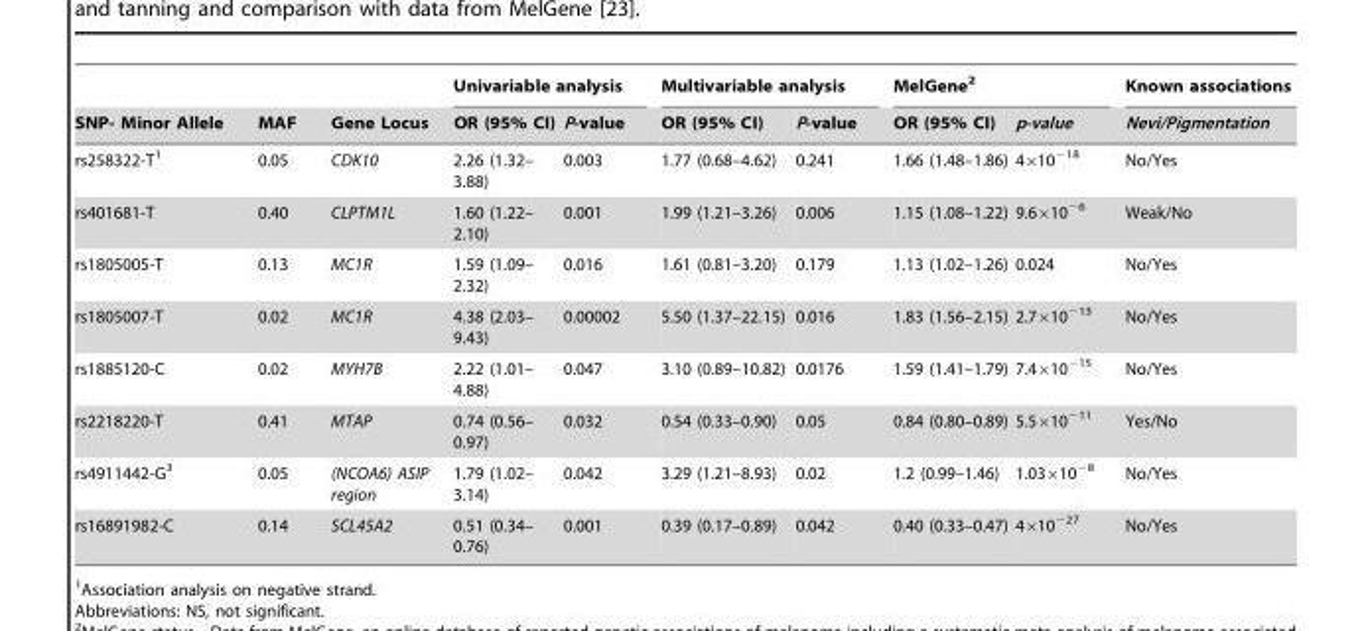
<table><thead><tr><td rowspan="2">SNP- Minor Allele</td><td rowspan="2">MAF</td><td rowspan="2">Gene Locus</td><td colspan="2">Univariable analysis</td><td colspan="2">Multivariable analysis</td><td colspan="2">MelGene<sup>2</sup></td><td rowspan="2">Known associations Nevi/Pigmentation</td></tr><tr><td>OR (95% CI)</td><td>P-value</td><td>OR (95% CI)</td><td>P-value</td><td>OR (95% CI)</td><td>p-value</td></tr></thead><tbody><tr><td>rs258322-T<sup>1</sup></td><td>0.05</td><td>CDK10</td><td>2.26 (1.32– 3.88)</td><td>0.003</td><td>1.77 (0.68–4.62)</td><td>0.241</td><td>1.66 (1.48–1.86)</td><td>4×10<sup>−18</sup></td><td>No/Yes</td></tr><tr><td>rs401681-T</td><td>0.40</td><td>CLPTM1L</td><td>1.60 (1.22– 2.10)</td><td>0.001</td><td>1.99 (1.21–3.26)</td><td>0.006</td><td>1.15 (1.08–1.22)</td><td>9.6×10<sup>−6</sup></td><td>Weak/No</td></tr><tr><td>rs1805005-T</td><td>0.13</td><td>MC1R</td><td>1.59 (1.09– 2.32)</td><td>0.016</td><td>1.61 (0.81–3.20)</td><td>0.179</td><td>1.13 (1.02–1.26)</td><td>0.024</td><td>No/Yes</td></tr><tr><td>rs1805007-T</td><td>0.02</td><td>MC1R</td><td>4.38 (2.03– 9.43)</td><td>0.00002</td><td>5.50 (1.37–22.15)</td><td>0.016</td><td>1.83 (1.56–2.15)</td><td>2.7×10<sup>−13</sup></td><td>No/Yes</td></tr><tr><td>rs1885120-C</td><td>0.02</td><td>MYH7B</td><td>2.22 (1.01– 4.88)</td><td>0.047</td><td>3.10 (0.89–10.82)</td><td>0.0176</td><td>1.59 (1.41–1.79)</td><td>7.4×10<sup>−15</sup></td><td>No/Yes</td></tr><tr><td>rs2218220-T</td><td>0.41</td><td>MTAP</td><td>0.74 (0.56– 0.97)</td><td>0.032</td><td>0.54 (0.33–0.90)</td><td>0.05</td><td>0.84 (0.80–0.89)</td><td>5.5×10<sup>−11</sup></td><td>Yes/No</td></tr><tr><td>rs4911442-G<sup>3</sup></td><td>0.05</td><td>(NCOA6) ASIP region</td><td>1.79 (1.02– 3.14)</td><td>0.042</td><td>3.29 (1.21–8.93)</td><td>0.02</td><td>1.2 (0.99–1.46)</td><td>1.03×10<sup>−8</sup></td><td>No/Yes</td></tr><tr><td>rs16891982-C</td><td>0.14</td><td>SCL45A2</td><td>0.51 (0.34– 0.76)</td><td>0.001</td><td>0.39 (0.17–0.89)</td><td>0.042</td><td>0.40 (0.33–0.47)</td><td>4×10<sup>−27</sup></td><td>No/Yes</td></tr></tbody></table>